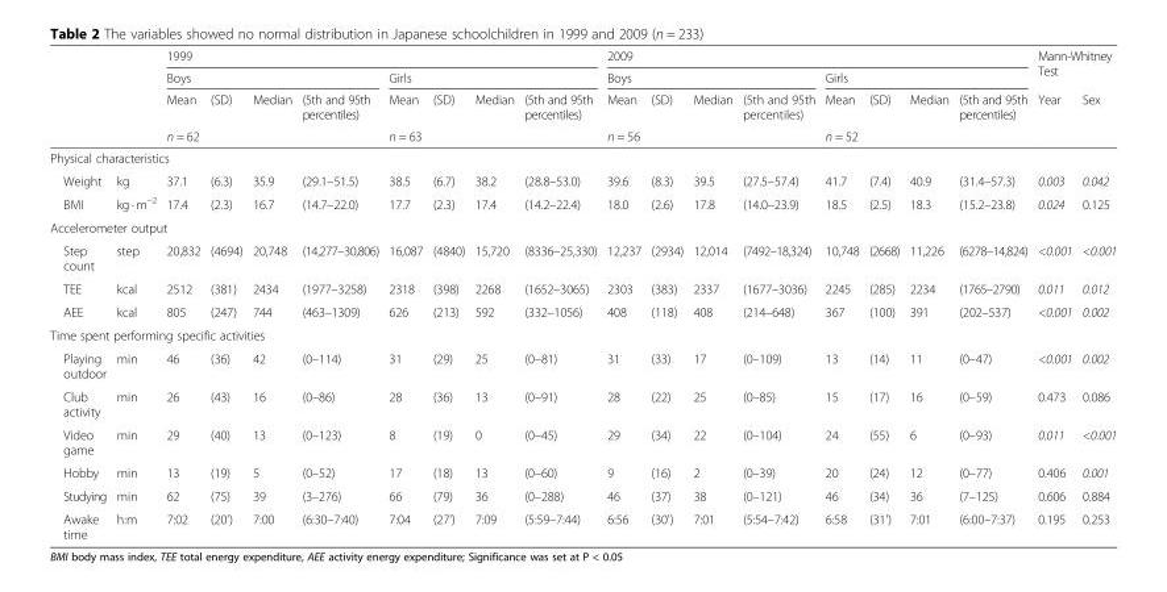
<table><thead><tr><td rowspan="4"></td><td rowspan="4"></td><td colspan="8">1999</td><td colspan="8">2009</td><td rowspan="2" colspan="2">Mann-Whitney Test</td></tr><tr><td colspan="4">Boys</td><td colspan="4">Girls</td><td colspan="4">Boys</td><td colspan="4">Girls</td></tr><tr><td>Mean</td><td>(SD)</td><td>Median</td><td>(5th and 95th percentiles)</td><td>Mean</td><td>(SD)</td><td>Median</td><td>(5th and 95th percentiles)</td><td>Mean</td><td>(SD)</td><td>Median</td><td>(5th and 95th percentiles)</td><td>Mean</td><td>(SD)</td><td>Median</td><td>(5th and 95th percentiles)</td><td rowspan="2">Year</td><td rowspan="2">Sex</td></tr><tr><td colspan="4">n = 62</td><td colspan="4">n = 63</td><td colspan="4">n = 56</td><td colspan="4">n = 52</td></tr></thead><tbody><tr><td colspan="20">Physical characteristics</td></tr><tr><td>Weight</td><td>kg</td><td>37.1</td><td>(6.3)</td><td>35.9</td><td>(29.1–51.5)</td><td>38.5</td><td>(6.7)</td><td>38.2</td><td>(28.8–53.0)</td><td>39.6</td><td>(8.3)</td><td>39.5</td><td>(27.5–57.4)</td><td>41.7</td><td>(7.4)</td><td>40.9</td><td>(31.4–57.3)</td><td>0.003</td><td>0.042</td></tr><tr><td>BMI</td><td>kg · m<sup>−2</sup></td><td>17.4</td><td>(2.3)</td><td>16.7</td><td>(14.7–22.0)</td><td>17.7</td><td>(2.3)</td><td>17.4</td><td>(14.2–22.4)</td><td>18.0</td><td>(2.6)</td><td>17.8</td><td>(14.0–23.9)</td><td>18.5</td><td>(2.5)</td><td>18.3</td><td>(15.2–23.8)</td><td>0.024</td><td>0.125</td></tr><tr><td colspan="20">Accelerometer output</td></tr><tr><td>Step count</td><td>step</td><td>20,832</td><td>(4694)</td><td>20,748</td><td>(14,277–30,806)</td><td>16,087</td><td>(4840)</td><td>15,720</td><td>(8336–25,330)</td><td>12,237</td><td>(2934)</td><td>12,014</td><td>(7492–18,324)</td><td>10,748</td><td>(2668)</td><td>11,226</td><td>(6278–14,824)</td><td>&lt;0.001</td><td>&lt;0.001</td></tr><tr><td>TEE</td><td>kcal</td><td>2512</td><td>(381)</td><td>2434</td><td>(1977–3258)</td><td>2318</td><td>(398)</td><td>2268</td><td>(1652–3065)</td><td>2303</td><td>(383)</td><td>2337</td><td>(1677–3036)</td><td>2245</td><td>(285)</td><td>2234</td><td>(1765–2790)</td><td>0.011</td><td>0.012</td></tr><tr><td>AEE</td><td>kcal</td><td>805</td><td>(247)</td><td>744</td><td>(463–1309)</td><td>626</td><td>(213)</td><td>592</td><td>(332–1056)</td><td>408</td><td>(118)</td><td>408</td><td>(214–648)</td><td>367</td><td>(100)</td><td>391</td><td>(202–537)</td><td>&lt;0.001</td><td>0.002</td></tr><tr><td colspan="20">Time spent performing specific activities</td></tr><tr><td>Playing outdoor</td><td>min</td><td>46</td><td>(36)</td><td>42</td><td>(0–114)</td><td>31</td><td>(29)</td><td>25</td><td>(0–81)</td><td>31</td><td>(33)</td><td>17</td><td>(0–109)</td><td>13</td><td>(14)</td><td>11</td><td>(0–47)</td><td>&lt;0.001</td><td>0.002</td></tr><tr><td>Club activity</td><td>min</td><td>26</td><td>(43)</td><td>16</td><td>(0–86)</td><td>28</td><td>(36)</td><td>13</td><td>(0–91)</td><td>28</td><td>(22)</td><td>25</td><td>(0–85)</td><td>15</td><td>(17)</td><td>16</td><td>(0–59)</td><td>0.473</td><td>0.086</td></tr><tr><td>Video game</td><td>min</td><td>29</td><td>(40)</td><td>13</td><td>(0–123)</td><td>8</td><td>(19)</td><td>0</td><td>(0–45)</td><td>29</td><td>(34)</td><td>22</td><td>(0–104)</td><td>24</td><td>(55)</td><td>6</td><td>(0–93)</td><td>0.011</td><td>&lt;0.001</td></tr><tr><td>Hobby</td><td>min</td><td>13</td><td>(19)</td><td>5</td><td>(0–52)</td><td>17</td><td>(18)</td><td>13</td><td>(0–60)</td><td>9</td><td>(16)</td><td>2</td><td>(0–39)</td><td>20</td><td>(24)</td><td>12</td><td>(0–77)</td><td>0.406</td><td>0.001</td></tr><tr><td>Studying</td><td>min</td><td>62</td><td>(75)</td><td>39</td><td>(3–276)</td><td>66</td><td>(79)</td><td>36</td><td>(0–288)</td><td>46</td><td>(37)</td><td>38</td><td>(0–121)</td><td>46</td><td>(34)</td><td>36</td><td>(7–125)</td><td>0.606</td><td>0.884</td></tr><tr><td>Awake time</td><td>h:m</td><td>7:02</td><td>(20&#x27;)</td><td>7:00</td><td>(6:30–7:40)</td><td>7:04</td><td>(27&#x27;)</td><td>7:09</td><td>(5:59–7:44)</td><td>6:56</td><td>(30&#x27;)</td><td>7:01</td><td>(5:54–7:42)</td><td>6:58</td><td>(31&#x27;)</td><td>7:01</td><td>(6:00–7:37)</td><td>0.195</td><td>0.253</td></tr></tbody></table>